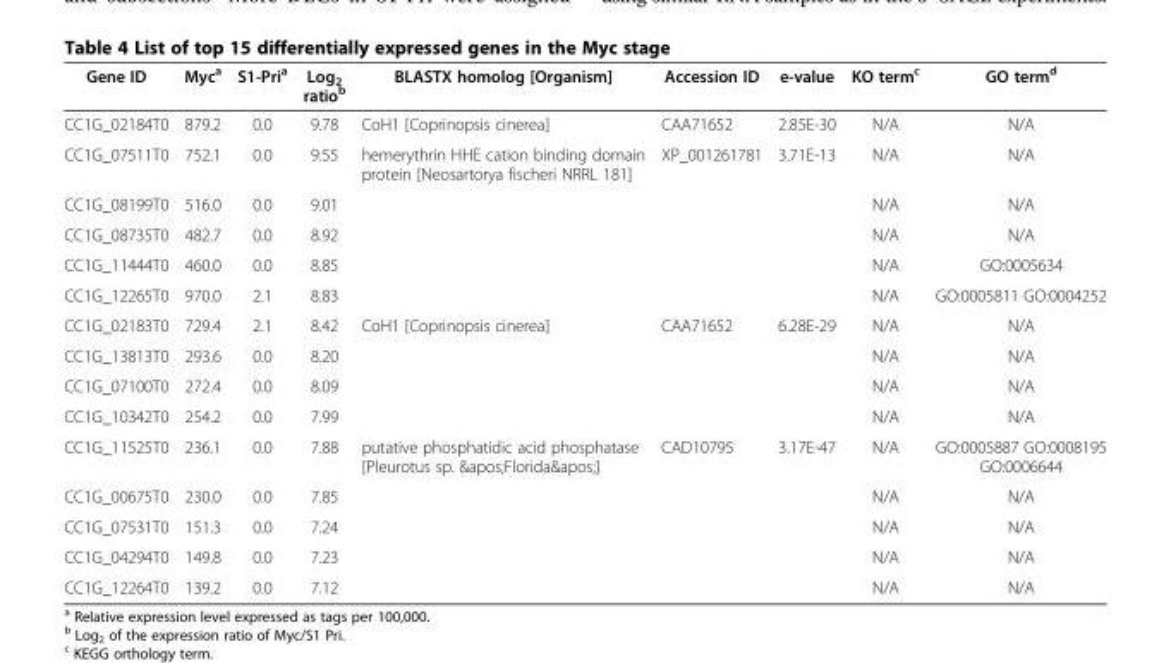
<table><thead><tr><td>Gene ID</td><td>Myc<sup>a</sup></td><td>S1-Pri<sup>a</sup></td><td>Log<sub>2</sub> ratio<sup>b</sup></td><td>BLASTX homolog [Organism]</td><td>Accession ID</td><td>e-value</td><td>KO term<sup>c</sup></td><td>GO term<sup>d</sup></td></tr></thead><tbody><tr><td>CC1G_02184T0</td><td>879.2</td><td>0.0</td><td>9.78</td><td>CoH1 [Coprinopsis cinerea]</td><td>CAA71652</td><td>2.85E-30</td><td>N/A</td><td>N/A</td></tr><tr><td>CC1G_07511T0</td><td>752.1</td><td>0.0</td><td>9.55</td><td>hemerythrin HHE cation binding domain protein [Neosartorya fischeri NRRL 181]</td><td>XP_001261781</td><td>3.71E-13</td><td>N/A</td><td>N/A</td></tr><tr><td>CC1G_08199T0</td><td>516.0</td><td>0.0</td><td>9.01</td><td></td><td></td><td></td><td>N/A</td><td>N/A</td></tr><tr><td>CC1G_08735T0</td><td>482.7</td><td>0.0</td><td>8.92</td><td></td><td></td><td></td><td>N/A</td><td>N/A</td></tr><tr><td>CC1G_11444T0</td><td>460.0</td><td>0.0</td><td>8.85</td><td></td><td></td><td></td><td>N/A</td><td>GO:0005634</td></tr><tr><td>CC1G_12265T0</td><td>970.0</td><td>2.1</td><td>8.83</td><td></td><td></td><td></td><td>N/A</td><td>GO:0005811 GO:0004252</td></tr><tr><td>CC1G_02183T0</td><td>729.4</td><td>2.1</td><td>8.42</td><td>CoH1 [Coprinopsis cinerea]</td><td>CAA71652</td><td>6.28E-29</td><td>N/A</td><td>N/A</td></tr><tr><td>CC1G_13813T0</td><td>293.6</td><td>0.0</td><td>8.20</td><td></td><td></td><td></td><td>N/A</td><td>N/A</td></tr><tr><td>CC1G_07100T0</td><td>272.4</td><td>0.0</td><td>8.09</td><td></td><td></td><td></td><td>N/A</td><td>N/A</td></tr><tr><td>CC1G_10342T0</td><td>254.2</td><td>0.0</td><td>7.99</td><td></td><td></td><td></td><td>N/A</td><td>N/A</td></tr><tr><td>CC1G_11525T0</td><td>236.1</td><td>0.0</td><td>7.88</td><td>putative phosphatidic acid phosphatase [Pleurotus sp. &amp;apos;Florida&amp;apos;]</td><td>CAD10795</td><td>3.17E-47</td><td>N/A</td><td>GO:0005887 GO:0008195 GO:0006644</td></tr><tr><td>CC1G_00675T0</td><td>230.0</td><td>0.0</td><td>7.85</td><td></td><td></td><td></td><td>N/A</td><td>N/A</td></tr><tr><td>CC1G_07531T0</td><td>151.3</td><td>0.0</td><td>7.24</td><td></td><td></td><td></td><td>N/A</td><td>N/A</td></tr><tr><td>CC1G_04294T0</td><td>149.8</td><td>0.0</td><td>7.23</td><td></td><td></td><td></td><td>N/A</td><td>N/A</td></tr><tr><td>CC1G_12264T0</td><td>139.2</td><td>0.0</td><td>7.12</td><td></td><td></td><td></td><td>N/A</td><td>N/A</td></tr></tbody></table>